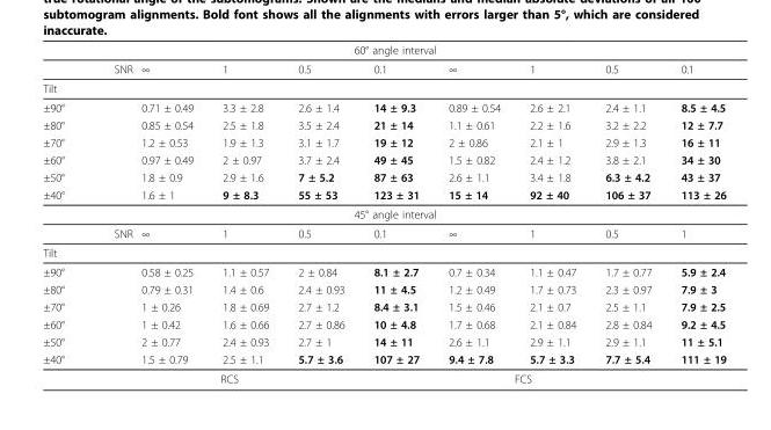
<table><thead><tr><td colspan="10">60° angle interval</td></tr><tr><td></td><td>SNR</td><td>∞</td><td>1</td><td>0.5</td><td>0.1</td><td>∞</td><td>1</td><td>0.5</td><td>0.1</td></tr></thead><tbody><tr><td colspan="10">Tilt</td></tr><tr><td>±90°</td><td></td><td>0.71 ± 0.49</td><td>3.3 ± 2.8</td><td>2.6 ± 1.4</td><td>14 ± 9.3</td><td>0.89 ± 0.54</td><td>2.6 ± 2.1</td><td>2.4 ± 1.1</td><td>8.5 ± 4.5</td></tr><tr><td>±80°</td><td></td><td>0.85 ± 0.54</td><td>2.5 ± 1.8</td><td>3.5 ± 2.4</td><td>21 ± 14</td><td>1.1 ± 0.61</td><td>2.2 ± 1.6</td><td>3.2 ± 2.2</td><td>12 ± 7.7</td></tr><tr><td>±70°</td><td></td><td>1.2 ± 0.53</td><td>1.9 ± 1.3</td><td>3.1 ± 1.7</td><td>19 ± 12</td><td>2 ± 0.86</td><td>2.1 ± 1</td><td>2.9 ± 1.3</td><td>16 ± 11</td></tr><tr><td>±60°</td><td></td><td>0.97 ± 0.49</td><td>2 ± 0.97</td><td>3.7 ± 2.4</td><td>49 ± 45</td><td>1.5 ± 0.82</td><td>2.4 ± 1.2</td><td>3.8 ± 2.1</td><td>34 ± 30</td></tr><tr><td>±50°</td><td></td><td>1.8 ± 0.9</td><td>2.9 ± 1.6</td><td>7 ± 5.2</td><td>87 ± 63</td><td>2.6 ± 1.1</td><td>3.4 ± 1.8</td><td>6.3 ± 4.2</td><td>43 ± 37</td></tr><tr><td>±40°</td><td></td><td>1.6 ± 1</td><td>9 ± 8.3</td><td>55 ± 53</td><td>123 ± 31</td><td>15 ± 14</td><td>92 ± 40</td><td>106 ± 37</td><td>113 ± 26</td></tr><tr><td colspan="10">45° angle interval</td></tr><tr><td></td><td>SNR</td><td>∞</td><td>1</td><td>0.5</td><td>0.1</td><td>∞</td><td>1</td><td>0.5</td><td>1</td></tr><tr><td colspan="10">Tilt</td></tr><tr><td>±90°</td><td></td><td>0.58 ± 0.25</td><td>1.1 ± 0.57</td><td>2 ± 0.84</td><td>8.1 ± 2.7</td><td>0.7 ± 0.34</td><td>1.1 ± 0.47</td><td>1.7 ± 0.77</td><td>5.9 ± 2.4</td></tr><tr><td>±80°</td><td></td><td>0.79 ± 0.31</td><td>1.4 ± 0.6</td><td>2.4 ± 0.93</td><td>11 ± 4.5</td><td>1.2 ± 0.49</td><td>1.7 ± 0.73</td><td>2.3 ± 0.97</td><td>7.9 ± 3</td></tr><tr><td>±70°</td><td></td><td>1 ± 0.26</td><td>1.8 ± 0.69</td><td>2.7 ± 1.2</td><td>8.4 ± 3.1</td><td>1.5 ± 0.46</td><td>2.1 ± 0.7</td><td>2.5 ± 1.1</td><td>7.9 ± 2.5</td></tr><tr><td>±60°</td><td></td><td>1 ± 0.42</td><td>1.6 ± 0.66</td><td>2.7 ± 0.86</td><td>10 ± 4.8</td><td>1.7 ± 0.68</td><td>2.1 ± 0.84</td><td>2.8 ± 0.84</td><td>9.2 ± 4.5</td></tr><tr><td>±50°</td><td></td><td>2 ± 0.77</td><td>2.4 ± 0.93</td><td>2.7 ± 1</td><td>14 ± 11</td><td>2.6 ± 1.1</td><td>2.9 ± 1.1</td><td>2.9 ± 1.1</td><td>11 ± 5.1</td></tr><tr><td>±40°</td><td></td><td>1.5 ± 0.79</td><td>2.5 ± 1.1</td><td>5.7 ± 3.6</td><td>107 ± 27</td><td>9.4 ± 7.8</td><td>5.7 ± 3.3</td><td>7.7 ± 5.4</td><td>111 ± 19</td></tr><tr><td colspan="2"></td><td colspan="4">RCS</td><td colspan="4">FCS</td></tr></tbody></table>